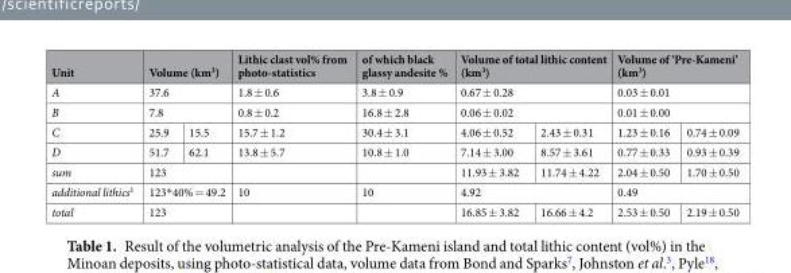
<table><thead><tr><td rowspan="4">Unit A B C</td><td rowspan="3" colspan="2">Volume (km<sup>3</sup>) 37.6 7.8</td><td rowspan="4">Lithic clast vol% from photo-statistics 1.8 ± 0.6 0.8 ± 0.2 15.7 ± 1.2</td><td rowspan="4">of which black glassy andesite % 3.8 ± 0.9 16.8 ± 2.8 30.4 ± 3.1</td><td rowspan="3" colspan="2">Volume of total lithic content (km<sup>3</sup>) 0.67 ± 0.28 0.06 ± 0.02</td><td rowspan="3" colspan="2">Volume of ‘Pre-Kameni’ (km<sup>3</sup>) 0.03 ± 0.01 0.01 ± 0.00</td></tr><tr></tr><tr></tr><tr><td>25.9</td><td>15.5</td><td>4.06 ± 0.52</td><td>2.43 ± 0.31</td><td>1.23 ± 0.16</td><td>0.74 ± 0.09</td></tr></thead><tbody><tr><td>D</td><td>51.7</td><td>62.1</td><td>13.8 ± 5.7</td><td>10.8 ± 1.0</td><td>7.14 ± 3.00</td><td>8.57 ± 3.61</td><td>0.77 ± 0.33</td><td>0.93 ± 0.39</td></tr><tr><td>sum</td><td colspan="2">123</td><td></td><td></td><td>11.93 ± 3.82</td><td>11.74 ± 4.22</td><td>2.04 ± 0.50</td><td>1.70 ± 0.50</td></tr><tr><td>additional lithics<sup>1</sup></td><td colspan="2">123*40% = 49.2</td><td>10</td><td>10</td><td colspan="2">4.92</td><td colspan="2">0.49</td></tr><tr><td>total</td><td colspan="2">123</td><td></td><td></td><td>16.85 ± 3.82</td><td>16.66 ± 4.2</td><td>2.53 ± 0.50</td><td>2.19 ± 0.50</td></tr></tbody></table>